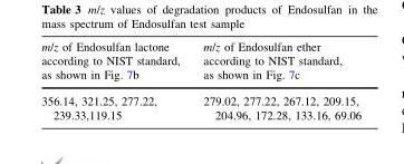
<table><thead><tr><td>m/z of Endosulfan lactone according to NIST standard, as shown in Fig. 7b</td><td>m/z of Endosulfan ether according to NIST standard, as shown in Fig. 7c</td></tr></thead><tbody><tr><td>356.14, 321.25, 277.22, 239.33,119.15</td><td>279.02, 277.22, 267.12, 209.15, 204.96, 172.28, 133.16, 69.06</td></tr></tbody></table>